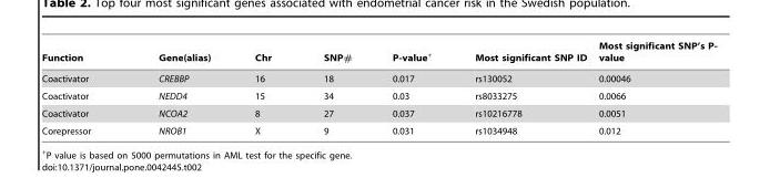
<table><thead><tr><td>Function</td><td>Gene(alias)</td><td>Chr</td><td>SNP#</td><td>P-value+</td><td>Most significant SNP ID</td><td>Most significant SNP’s P- value</td></tr></thead><tbody><tr><td>Coactivator</td><td>CREBBP</td><td>16</td><td>18</td><td>0.017</td><td>rs130052</td><td>0.00046</td></tr><tr><td>Coactivator</td><td>NEDD4</td><td>15</td><td>34</td><td>0.03</td><td>rs8033275</td><td>0.0066</td></tr><tr><td>Coactivator</td><td>NCOA2</td><td>8</td><td>27</td><td>0.037</td><td>rs10216778</td><td>0.0051</td></tr><tr><td>Corepressor</td><td>NROB1</td><td>X</td><td>9</td><td>0.031</td><td>rs1034948</td><td>0.012</td></tr></tbody></table>